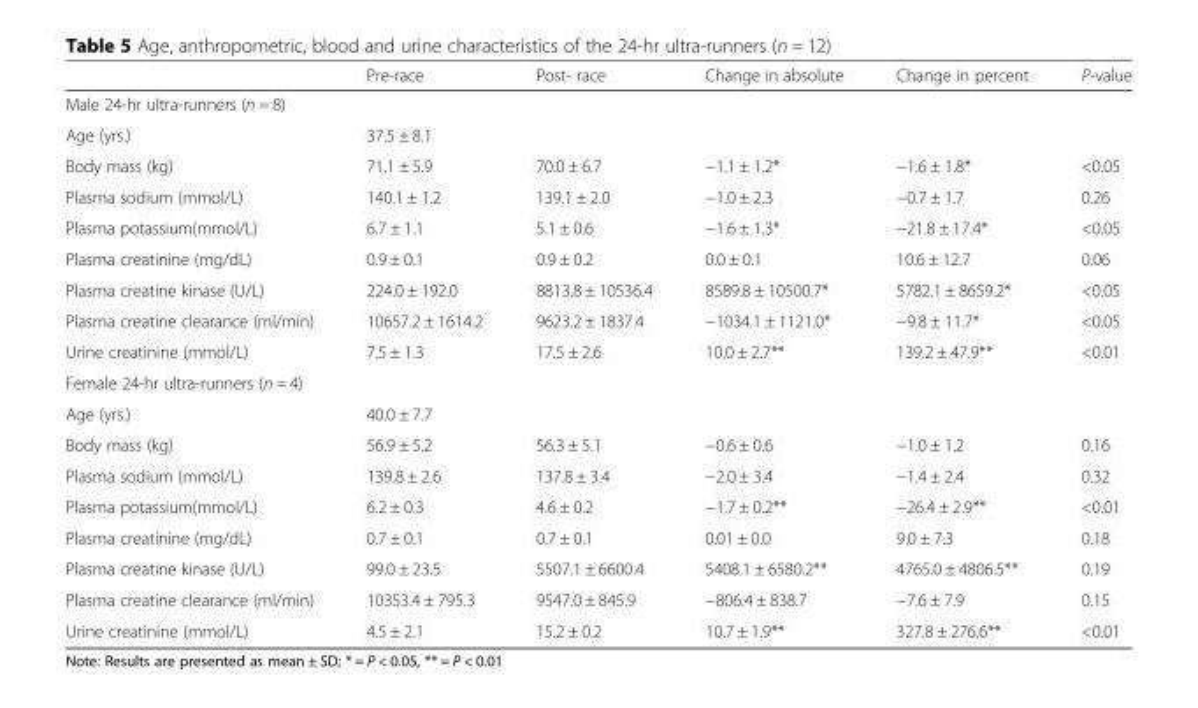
<table><thead><tr><td></td><td>Pre-race</td><td>Post- race</td><td>Change in absolute</td><td>Change in percent</td><td>P-value</td></tr></thead><tbody><tr><td colspan="6">Male 24-hr ultra-runners (n = 8)</td></tr><tr><td>Age (yrs.)</td><td>37.5 ± 8.1</td><td></td><td></td><td></td><td></td></tr><tr><td>Body mass (kg)</td><td>71.1 ± 5.9</td><td>70.0 ± 6.7</td><td>−1.1 ± 1.2*</td><td>−1.6 ± 1.8*</td><td>&lt;0.05</td></tr><tr><td>Plasma sodium (mmol/L)</td><td>140.1 ± 1.2</td><td>139.1 ± 2.0</td><td>−1.0 ± 2.3</td><td>−0.7 ± 1.7</td><td>0.26</td></tr><tr><td>Plasma potassium(mmol/L)</td><td>6.7 ± 1.1</td><td>5.1 ± 0.6</td><td>−1.6 ± 1.3*</td><td>−21.8 ± 17.4*</td><td>&lt;0.05</td></tr><tr><td>Plasma creatinine (mg/dL)</td><td>0.9 ± 0.1</td><td>0.9 ± 0.2</td><td>0.0 ± 0.1</td><td>10.6 ± 12.7</td><td>0.06</td></tr><tr><td>Plasma creatine kinase (U/L)</td><td>224.0 ± 192.0</td><td>8813.8 ± 10536.4</td><td>8589.8 ± 10500.7*</td><td>5782.1 ± 8659.2*</td><td>&lt;0.05</td></tr><tr><td>Plasma creatine clearance (ml/min)</td><td>10657.2 ± 1614.2</td><td>9623.2 ± 1837.4</td><td>−1034.1 ± 1121.0*</td><td>−9.8 ± 11.7*</td><td>&lt;0.05</td></tr><tr><td>Urine creatinine (mmol/L)</td><td>7.5 ± 1.3</td><td>17.5 ± 2.6</td><td>10.0 ± 2.7**</td><td>139.2 ± 47.9**</td><td>&lt;0.01</td></tr><tr><td colspan="6">Female 24-hr ultra-runners (n = 4)</td></tr><tr><td>Age (yrs.)</td><td>40.0 ± 7.7</td><td></td><td></td><td></td><td></td></tr><tr><td>Body mass (kg)</td><td>56.9 ± 5.2</td><td>56.3 ± 5.1</td><td>−0.6 ± 0.6</td><td>−1.0 ± 1.2</td><td>0.16</td></tr><tr><td>Plasma sodium (mmol/L)</td><td>139.8 ± 2.6</td><td>137.8 ± 3.4</td><td>−2.0 ± 3.4</td><td>−1.4 ± 2.4</td><td>0.32</td></tr><tr><td>Plasma potassium(mmol/L)</td><td>6.2 ± 0.3</td><td>4.6 ± 0.2</td><td>−1.7 ± 0.2**</td><td>−26.4 ± 2.9**</td><td>&lt;0.01</td></tr><tr><td>Plasma creatinine (mg/dL)</td><td>0.7 ± 0.1</td><td>0.7 ± 0.1</td><td>0.01 ± 0.0</td><td>9.0 ± 7.3</td><td>0.18</td></tr><tr><td>Plasma creatine kinase (U/L)</td><td>99.0 ± 23.5</td><td>5507.1 ± 6600.4</td><td>5408.1 ± 6580.2**</td><td>4765.0 ± 4806.5**</td><td>0.19</td></tr><tr><td>Plasma creatine clearance (ml/min)</td><td>10353.4 ± 795.3</td><td>9547.0 ± 845.9</td><td>−806.4 ± 838.7</td><td>−7.6 ± 7.9</td><td>0.15</td></tr><tr><td>Urine creatinine (mmol/L)</td><td>4.5 ± 2.1</td><td>15.2 ± 0.2</td><td>10.7 ± 1.9**</td><td>327.8 ± 276.6**</td><td>&lt;0.01</td></tr></tbody></table>